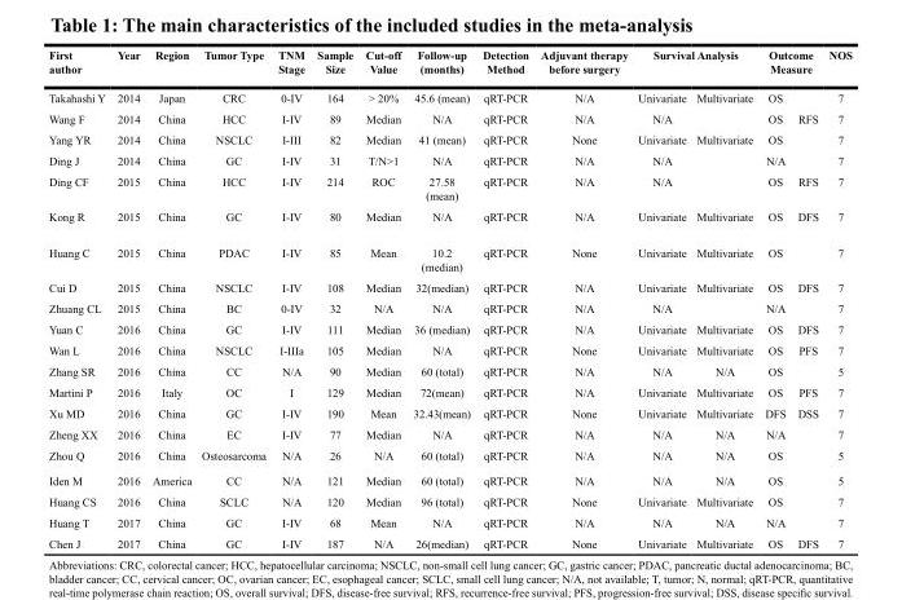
<table><thead><tr><td rowspan="2">First author Takahashi Y</td><td rowspan="2">Year 2014</td><td rowspan="2">Region Japan</td><td rowspan="2">Tumor Type CRC</td><td rowspan="2">TNM Stage 0-IV</td><td rowspan="2">Sample Size 164</td><td rowspan="2">Cut-off Value &gt; 20%</td><td rowspan="2">Follow-up (months) 45.6 (mean)</td><td rowspan="2">Detection Method qRT-PCR</td><td rowspan="2">Adjuvant therapy before surgery N/A</td><td colspan="2">Survival Analysis</td><td colspan="2">Outcome Measure</td><td rowspan="2">NOS 7</td></tr><tr><td>Univariate</td><td>Multivariate</td><td>OS</td><td></td></tr></thead><tbody><tr><td>Wang F</td><td>2014</td><td>China</td><td>HCC</td><td>I-IV</td><td>89</td><td>Median</td><td>N/A</td><td>qRT-PCR</td><td>N/A</td><td>N/A</td><td></td><td>OS</td><td>RFS</td><td>7</td></tr><tr><td>Yang YR</td><td>2014</td><td>China</td><td>NSCLC</td><td>I-III</td><td>82</td><td>Median</td><td>41 (mean)</td><td>qRT-PCR</td><td>None</td><td>Univariate</td><td>Multivariate</td><td>OS</td><td></td><td>7</td></tr><tr><td>Ding J</td><td>2014</td><td>China</td><td>GC</td><td>I-IV</td><td>31</td><td>T/N&gt;1</td><td>N/A</td><td>qRT-PCR</td><td>N/A</td><td>N/A</td><td></td><td>N/A</td><td></td><td>7</td></tr><tr><td>Ding CF</td><td>2015</td><td>China</td><td>HCC</td><td>I-IV</td><td>214</td><td>ROC</td><td>27.58 (mean)</td><td>qRT-PCR</td><td>N/A</td><td>N/A</td><td></td><td>OS</td><td>RFS</td><td>7</td></tr><tr><td>Kong R</td><td>2015</td><td>China</td><td>GC</td><td>I-IV</td><td>80</td><td>Median</td><td>N/A</td><td>qRT-PCR</td><td>N/A</td><td>Univariate</td><td>Multivariate</td><td>OS</td><td>DFS</td><td>7</td></tr><tr><td>Huang C</td><td>2015</td><td>China</td><td>PDAC</td><td>I-IV</td><td>85</td><td>Mean</td><td>10.2 (median)</td><td>qRT-PCR</td><td>None</td><td>Univariate</td><td>Multivariate</td><td>OS</td><td></td><td>7</td></tr><tr><td>Cui D</td><td>2015</td><td>China</td><td>NSCLC</td><td>I-IV</td><td>108</td><td>Median</td><td>32(median)</td><td>qRT-PCR</td><td>N/A</td><td>Univariate</td><td>Multivariate</td><td>OS</td><td>DFS</td><td>7</td></tr><tr><td>Zhuang CL</td><td>2015</td><td>China</td><td>BC</td><td>0-IV</td><td>32</td><td>N/A</td><td>N/A</td><td>qRT-PCR</td><td>N/A</td><td>N/A</td><td></td><td>N/A</td><td></td><td>7</td></tr><tr><td>Yuan C</td><td>2016</td><td>China</td><td>GC</td><td>I-IV</td><td>111</td><td>Median</td><td>36 (median)</td><td>qRT-PCR</td><td>N/A</td><td>Univariate</td><td>Multivariate</td><td>OS</td><td>DFS</td><td>7</td></tr><tr><td>Wan L</td><td>2016</td><td>China</td><td>NSCLC</td><td>I-IIIa</td><td>105</td><td>Median</td><td>N/A</td><td>qRT-PCR</td><td>None</td><td>Univariate</td><td>Multivariate</td><td>OS</td><td>PFS</td><td>7</td></tr><tr><td>Zhang SR</td><td>2016</td><td>China</td><td>CC</td><td>N/A</td><td>90</td><td>Median</td><td>60 (total)</td><td>qRT-PCR</td><td>N/A</td><td>N/A</td><td>N/A</td><td>OS</td><td></td><td>5</td></tr><tr><td>Martini P</td><td>2016</td><td>Italy</td><td>OC</td><td>I</td><td>129</td><td>Median</td><td>72(mean)</td><td>qRT-PCR</td><td>N/A</td><td>Univariate</td><td>Multivariate</td><td>OS</td><td>PFS</td><td>7</td></tr><tr><td>Xu MD</td><td>2016</td><td>China</td><td>GC</td><td>I-IV</td><td>190</td><td>Mean</td><td>32.43(mean)</td><td>qRT-PCR</td><td>None</td><td>Univariate</td><td>Multivariate</td><td>DFS</td><td>DSS</td><td>7</td></tr><tr><td>Zheng XX</td><td>2016</td><td>China</td><td>EC</td><td>I-IV</td><td>77</td><td>Median</td><td>N/A</td><td>qRT-PCR</td><td>N/A</td><td>N/A</td><td>N/A</td><td>N/A</td><td></td><td>7</td></tr><tr><td>Zhou Q</td><td>2016</td><td>China</td><td>Osteosarcoma</td><td>N/A</td><td>26</td><td>N/A</td><td>60 (total)</td><td>qRT-PCR</td><td>N/A</td><td>N/A</td><td>N/A</td><td>OS</td><td></td><td>5</td></tr><tr><td>Iden M</td><td>2016</td><td>America</td><td>CC</td><td>N/A</td><td>121</td><td>Median</td><td>60 (total)</td><td>qRT-PCR</td><td>N/A</td><td>N/A</td><td>N/A</td><td>OS</td><td></td><td>5</td></tr><tr><td>Huang CS</td><td>2016</td><td>China</td><td>SCLC</td><td>N/A</td><td>120</td><td>Median</td><td>96 (total)</td><td>qRT-PCR</td><td>None</td><td>Univariate</td><td>Multivariate</td><td>OS</td><td></td><td>7</td></tr><tr><td>Huang T</td><td>2017</td><td>China</td><td>GC</td><td>I-IV</td><td>68</td><td>Mean</td><td>N/A</td><td>qRT-PCR</td><td>N/A</td><td>N/A</td><td>N/A</td><td>N/A</td><td></td><td>7</td></tr><tr><td>Chen J</td><td>2017</td><td>China</td><td>GC</td><td>I-IV</td><td>187</td><td>N/A</td><td>26(median)</td><td>qRT-PCR</td><td>None</td><td>Univariate</td><td>Multivariate</td><td>OS</td><td>DFS</td><td>7</td></tr></tbody></table>